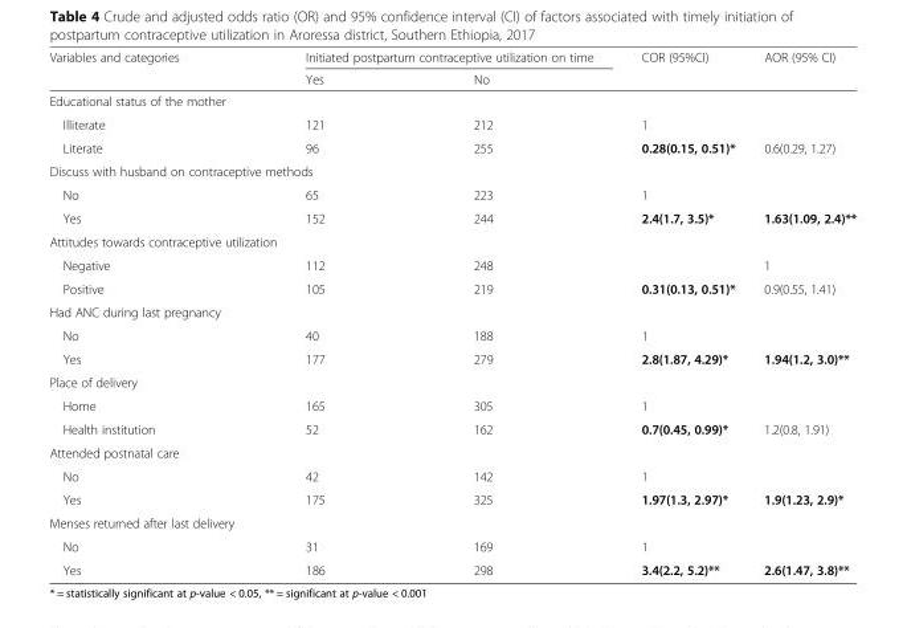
<table><thead><tr><td rowspan="2">Variables and categories</td><td colspan="2">Initiated postpartum contraceptive utilization on time</td><td rowspan="2">COR (95%CI)</td><td rowspan="2">AOR (95% CI)</td></tr><tr><td>Yes</td><td>No</td></tr></thead><tbody><tr><td colspan="5">Educational status of the mother</td></tr><tr><td>Illiterate</td><td>121</td><td>212</td><td>1</td><td></td></tr><tr><td>Literate</td><td>96</td><td>255</td><td>0.28(0.15, 0.51)*</td><td>0.6(0.29, 1.27)</td></tr><tr><td colspan="5">Discuss with husband on contraceptive methods</td></tr><tr><td>No</td><td>65</td><td>223</td><td>1</td><td></td></tr><tr><td>Yes</td><td>152</td><td>244</td><td>2.4(1.7, 3.5)*</td><td>1.63(1.09, 2.4)**</td></tr><tr><td colspan="5">Attitudes towards contraceptive utilization</td></tr><tr><td>Negative</td><td>112</td><td>248</td><td></td><td>1</td></tr><tr><td>Positive</td><td>105</td><td>219</td><td>0.31(0.13, 0.51)*</td><td>0.9(0.55, 1.41)</td></tr><tr><td colspan="5">Had ANC during last pregnancy</td></tr><tr><td>No</td><td>40</td><td>188</td><td>1</td><td></td></tr><tr><td>Yes</td><td>177</td><td>279</td><td>2.8(1.87, 4.29)*</td><td>1.94(1.2, 3.0)**</td></tr><tr><td colspan="5">Place of delivery</td></tr><tr><td>Home</td><td>165</td><td>305</td><td>1</td><td></td></tr><tr><td>Health institution</td><td>52</td><td>162</td><td>0.7(0.45, 0.99)*</td><td>1.2(0.8, 1.91)</td></tr><tr><td colspan="5">Attended postnatal care</td></tr><tr><td>No</td><td>42</td><td>142</td><td>1</td><td></td></tr><tr><td>Yes</td><td>175</td><td>325</td><td>1.97(1.3, 2.97)*</td><td>1.9(1.23, 2.9)*</td></tr><tr><td colspan="5">Menses returned after last delivery</td></tr><tr><td>No</td><td>31</td><td>169</td><td>1</td><td></td></tr><tr><td>Yes</td><td>186</td><td>298</td><td>3.4(2.2, 5.2)**</td><td>2.6(1.47, 3.8)**</td></tr></tbody></table>